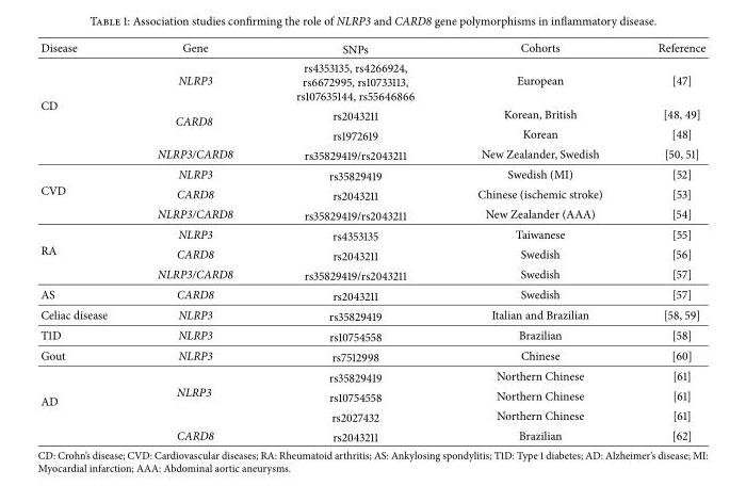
<table><thead><tr><td>Disease</td><td>Gene</td><td>SNPs</td><td>Cohorts</td><td>Reference</td></tr></thead><tbody><tr><td rowspan="4">CD</td><td>NLRP3</td><td>rs4353135, rs4266924, rs6672995, rs10733113, rs107635144, rs55646866</td><td>European</td><td>[47]</td></tr><tr><td rowspan="2">CARD8</td><td>rs2043211</td><td>Korean, British</td><td>[48, 49]</td></tr><tr><td>rs1972619</td><td>Korean</td><td>[48]</td></tr><tr><td>NLRP3/CARD8</td><td>rs35829419/rs2043211</td><td>New Zealander, Swedish</td><td>[50, 51]</td></tr><tr><td rowspan="3">CVD</td><td>NLRP3</td><td>rs35829419</td><td>Swedish (MI)</td><td>[52]</td></tr><tr><td>CARD8</td><td>rs2043211</td><td>Chinese (ischemic stroke)</td><td>[53]</td></tr><tr><td>NLRP3/CARD8</td><td>rs35829419/rs2043211</td><td>New Zealander (AAA)</td><td>[54]</td></tr><tr><td rowspan="3">RA</td><td>NLRP3</td><td>rs4353135</td><td>Taiwanese</td><td>[55]</td></tr><tr><td>CARD8</td><td>rs2043211</td><td>Swedish</td><td>[56]</td></tr><tr><td>NLRP3/CARD8</td><td>rs35829419/rs2043211</td><td>Swedish</td><td>[57]</td></tr><tr><td>AS</td><td>CARD8</td><td>rs2043211</td><td>Swedish</td><td>[57]</td></tr><tr><td>Celiac disease</td><td>NLRP3</td><td>rs35829419</td><td>Italian and Brazilian</td><td>[58, 59]</td></tr><tr><td>T1D</td><td>NLRP3</td><td>rs10754558</td><td>Brazilian</td><td>[58]</td></tr><tr><td>Gout</td><td>NLRP3</td><td>rs7512998</td><td>Chinese</td><td>[60]</td></tr><tr><td rowspan="4">AD</td><td rowspan="3">NLRP3</td><td>rs35829419</td><td>Northern Chinese</td><td>[61]</td></tr><tr><td>rs10754558</td><td>Northern Chinese</td><td>[61]</td></tr><tr><td>rs2027432</td><td>Northern Chinese</td><td>[61]</td></tr><tr><td>CARD8</td><td>rs2043211</td><td>Brazilian</td><td>[62]</td></tr></tbody></table>